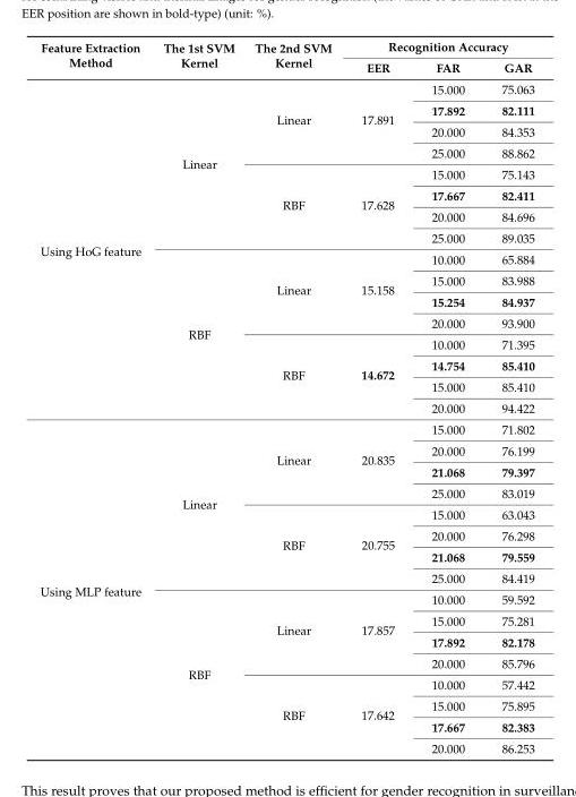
<table><thead><tr><td rowspan="2">Feature Extraction Method</td><td rowspan="2">The 1st SVM Kernel</td><td rowspan="2">The 2nd SVM Kernel</td><td colspan="3">Recognition Accuracy</td></tr><tr><td>EER</td><td>FAR</td><td>GAR</td></tr></thead><tbody><tr><td rowspan="16">Using HoG feature</td><td rowspan="8">Linear</td><td rowspan="4">Linear</td><td rowspan="4">17.891</td><td>15.000</td><td>75.063</td></tr><tr><td>17.892</td><td>82.111</td></tr><tr><td>20.000</td><td>84.353</td></tr><tr><td>25.000</td><td>88.862</td></tr><tr><td rowspan="4">RBF</td><td rowspan="4">17.628</td><td>15.000</td><td>75.143</td></tr><tr><td>17.667</td><td>82.411</td></tr><tr><td>20.000</td><td>84.696</td></tr><tr><td>25.000</td><td>89.035</td></tr><tr><td rowspan="8">RBF</td><td rowspan="4">Linear</td><td rowspan="4">15.158</td><td>10.000</td><td>65.884</td></tr><tr><td>15.000</td><td>83.988</td></tr><tr><td>15.254</td><td>84.937</td></tr><tr><td>20.000</td><td>93.900</td></tr><tr><td rowspan="4">RBF</td><td rowspan="4">14.672</td><td>10.000</td><td>71.395</td></tr><tr><td>14.754</td><td>85.410</td></tr><tr><td>15.000</td><td>85.410</td></tr><tr><td>20.000</td><td>94.422</td></tr><tr><td rowspan="16">Using MLP feature</td><td rowspan="8">Linear</td><td rowspan="4">Linear</td><td rowspan="4">20.835</td><td>15.000</td><td>71.802</td></tr><tr><td>20.000</td><td>76.199</td></tr><tr><td>21.068</td><td>79.397</td></tr><tr><td>25.000</td><td>83.019</td></tr><tr><td rowspan="4">RBF</td><td rowspan="4">20.755</td><td>15.000</td><td>63.043</td></tr><tr><td>20.000</td><td>76.298</td></tr><tr><td>21.068</td><td>79.559</td></tr><tr><td>25.000</td><td>84.419</td></tr><tr><td rowspan="8">RBF</td><td rowspan="4">Linear</td><td rowspan="4">17.857</td><td>10.000</td><td>59.592</td></tr><tr><td>15.000</td><td>75.281</td></tr><tr><td>17.892</td><td>82.178</td></tr><tr><td>20.000</td><td>85.796</td></tr><tr><td rowspan="4">RBF</td><td rowspan="4">17.642</td><td>10.000</td><td>57.442</td></tr><tr><td>15.000</td><td>75.895</td></tr><tr><td>17.667</td><td>82.383</td></tr><tr><td>20.000</td><td>86.253</td></tr></tbody></table>